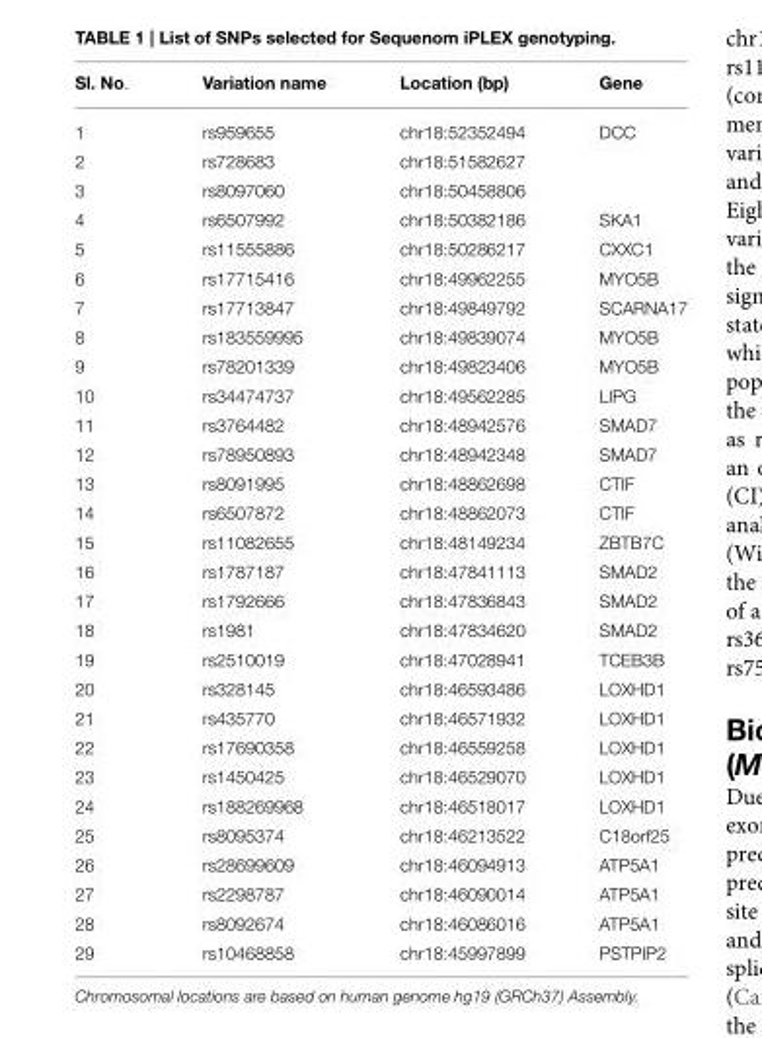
<table><thead><tr><td>Sl. No.</td><td>Variation name</td><td>Location (bp)</td><td>Gene</td></tr></thead><tbody><tr><td>1</td><td>rs959655</td><td>chr18:52352494</td><td>DCC</td></tr><tr><td>2</td><td>rs728683</td><td>chr18:51582627</td><td></td></tr><tr><td>3</td><td>rs8097060</td><td>chr18:50458806</td><td></td></tr><tr><td>4</td><td>rs6507992</td><td>chr18:50382186</td><td>SKA1</td></tr><tr><td>5</td><td>rs11555886</td><td>chr18:50286217</td><td>CXXC1</td></tr><tr><td>6</td><td>rs17715416</td><td>chr18:49962255</td><td>MYO5B</td></tr><tr><td>7</td><td>rs17713847</td><td>chr18:49849792</td><td>SCARNA17</td></tr><tr><td>8</td><td>rs183559995</td><td>chr18:49839074</td><td>MYO5B</td></tr><tr><td>9</td><td>rs78201339</td><td>chr18:49823406</td><td>MYO5B</td></tr><tr><td>10</td><td>rs34474737</td><td>chr18:49562285</td><td>LIPG</td></tr><tr><td>11</td><td>rs3764482</td><td>chr18:48942576</td><td>SMAD7</td></tr><tr><td>12</td><td>rs78950893</td><td>chr18:48942348</td><td>SMAD7</td></tr><tr><td>13</td><td>rs8091995</td><td>chr18:48862698</td><td>CTIF</td></tr><tr><td>14</td><td>rs6507872</td><td>chr18:48862073</td><td>CTIF</td></tr><tr><td>15</td><td>rs11082655</td><td>chr18:48149234</td><td>ZBTB7C</td></tr><tr><td>16</td><td>rs1787187</td><td>chr18:47841113</td><td>SMAD2</td></tr><tr><td>17</td><td>rs1792666</td><td>chr18:47836843</td><td>SMAD2</td></tr><tr><td>18</td><td>rs1981</td><td>chr18:47834620</td><td>SMAD2</td></tr><tr><td>19</td><td>rs2510019</td><td>chr18:47028941</td><td>TCEB3B</td></tr><tr><td>20</td><td>rs328145</td><td>chr18:46593486</td><td>LOXHD1</td></tr><tr><td>21</td><td>rs435770</td><td>chr18:46571932</td><td>LOXHD1</td></tr><tr><td>22</td><td>rs17690358</td><td>chr18:46559258</td><td>LOXHD1</td></tr><tr><td>23</td><td>rs1450425</td><td>chr18:46529070</td><td>LOXHD1</td></tr><tr><td>24</td><td>rs188269968</td><td>chr18:46518017</td><td>LOXHD1</td></tr><tr><td>25</td><td>rs8095374</td><td>chr18:46213522</td><td>C18orf25</td></tr><tr><td>26</td><td>rs28699609</td><td>chr18:46094913</td><td>ATP5A1</td></tr><tr><td>27</td><td>rs2298787</td><td>chr18:46090014</td><td>ATP5A1</td></tr><tr><td>28</td><td>rs8092674</td><td>chr18:46086016</td><td>ATP5A1</td></tr><tr><td>29</td><td>rs10468858</td><td>chr18:45997899</td><td>PSTPIP2</td></tr></tbody></table>